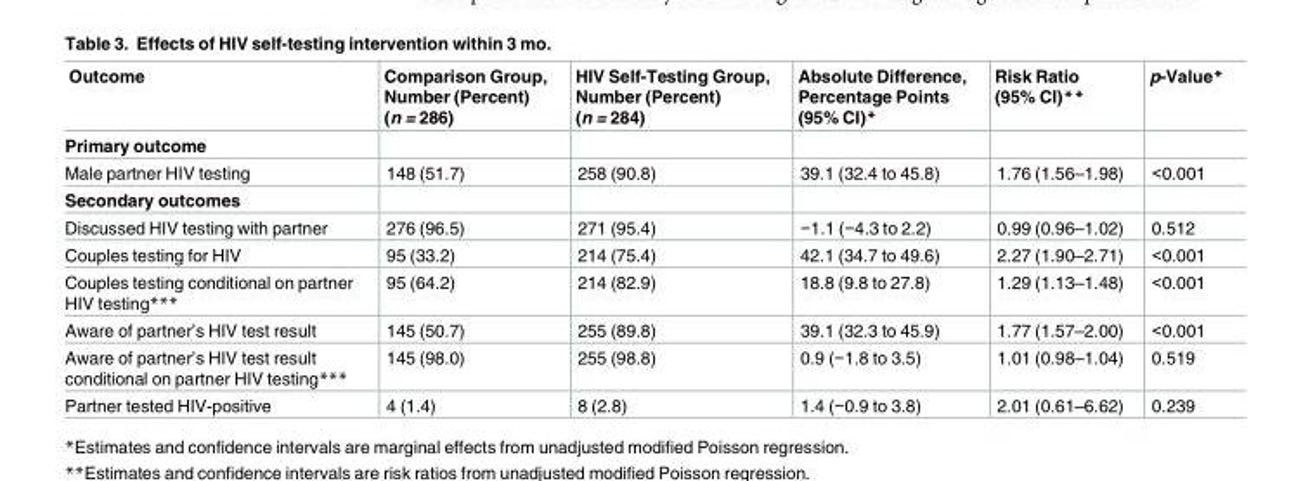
<table><thead><tr><td>Outcome</td><td>Comparison Group, Number (Percent) (n = 286)</td><td>HIV Self-Testing Group, Number (Percent) (n = 284)</td><td>Absolute Difference, Percentage Points (95% CI)*</td><td>Risk Ratio (95% CI)**</td><td>p-Value*</td></tr></thead><tbody><tr><td colspan="6">Primary outcome</td></tr><tr><td>Male partner HIV testing</td><td>148 (51.7)</td><td>258 (90.8)</td><td>39.1 (32.4 to 45.8)</td><td>1.76 (1.56–1.98)</td><td>&lt;0.001</td></tr><tr><td colspan="6">Secondary outcomes</td></tr><tr><td>Discussed HIV testing with partner</td><td>276 (96.5)</td><td>271 (95.4)</td><td>−1.1 (−4.3 to 2.2)</td><td>0.99 (0.96–1.02)</td><td>0.512</td></tr><tr><td>Couples testing for HIV</td><td>95 (33.2)</td><td>214 (75.4)</td><td>42.1 (34.7 to 49.6)</td><td>2.27 (1.90–2.71)</td><td>&lt;0.001</td></tr><tr><td>Couples testing conditional on partner HIV testing***</td><td>95 (64.2)</td><td>214 (82.9)</td><td>18.8 (9.8 to 27.8)</td><td>1.29 (1.13–1.48)</td><td>&lt;0.001</td></tr><tr><td>Aware of partner’s HIV test result</td><td>145 (50.7)</td><td>255 (89.8)</td><td>39.1 (32.3 to 45.9)</td><td>1.77 (1.57–2.00)</td><td>&lt;0.001</td></tr><tr><td>Aware of partner’s HIV test result conditional on partner HIV testing***</td><td>145 (98.0)</td><td>255 (98.8)</td><td>0.9 (−1.8 to 3.5)</td><td>1.01 (0.98–1.04)</td><td>0.519</td></tr><tr><td>Partner tested HIV-positive</td><td>4 (1.4)</td><td>8 (2.8)</td><td>1.4 (−0.9 to 3.8)</td><td>2.01 (0.61–6.62)</td><td>0.239</td></tr></tbody></table>